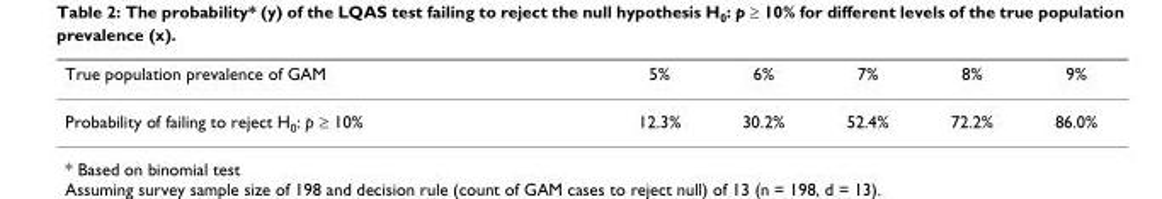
<table><thead><tr><td>True population prevalence of GAM</td><td>5%</td><td>6%</td><td>7%</td><td>8%</td><td>9%</td></tr></thead><tbody><tr><td>Probability of failing to reject H<sub>0</sub>: p ≥ 10%</td><td>12.3%</td><td>30.2%</td><td>52.4%</td><td>72.2%</td><td>86.0%</td></tr></tbody></table>